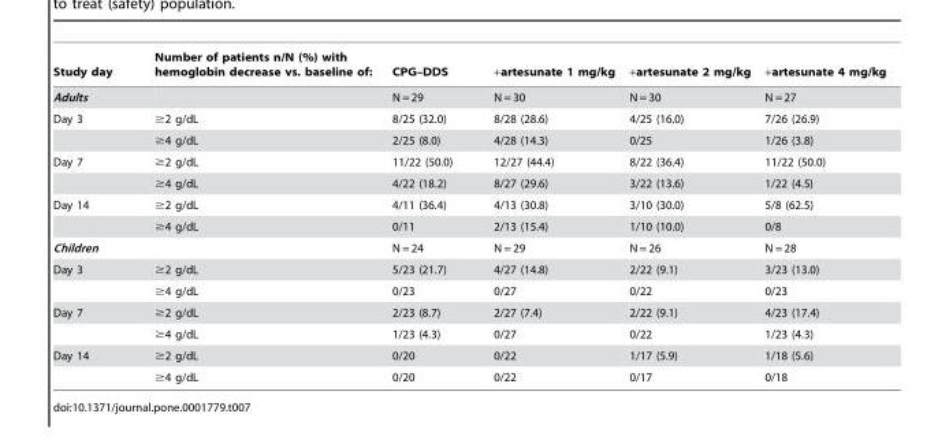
<table><thead><tr><td>Study day</td><td>Number of patients n/N (%) with hemoglobin decrease vs. baseline of:</td><td>CPG–DDS</td><td>+artesunate 1 mg/kg</td><td>+artesunate 2 mg/kg</td><td>+artesunate 4 mg/kg</td></tr></thead><tbody><tr><td>Adults</td><td></td><td>N = 29</td><td>N = 30</td><td>N = 30</td><td>N = 27</td></tr><tr><td rowspan="2">Day 3</td><td>≥2 g/dL</td><td>8/25 (32.0)</td><td>8/28 (28.6)</td><td>4/25 (16.0)</td><td>7/26 (26.9)</td></tr><tr><td>≥4 g/dL</td><td>2/25 (8.0)</td><td>4/28 (14.3)</td><td>0/25</td><td>1/26 (3.8)</td></tr><tr><td rowspan="2">Day 7</td><td>≥2 g/dL</td><td>11/22 (50.0)</td><td>12/27 (44.4)</td><td>8/22 (36.4)</td><td>11/22 (50.0)</td></tr><tr><td>≥4 g/dL</td><td>4/22 (18.2)</td><td>8/27 (29.6)</td><td>3/22 (13.6)</td><td>1/22 (4.5)</td></tr><tr><td rowspan="2">Day 14</td><td>≥2 g/dL</td><td>4/11 (36.4)</td><td>4/13 (30.8)</td><td>3/10 (30.0)</td><td>5/8 (62.5)</td></tr><tr><td>≥4 g/dL</td><td>0/11</td><td>2/13 (15.4)</td><td>1/10 (10.0)</td><td>0/8</td></tr><tr><td>Children</td><td></td><td>N = 24</td><td>N = 29</td><td>N = 26</td><td>N = 28</td></tr><tr><td rowspan="2">Day 3</td><td>≥2 g/dL</td><td>5/23 (21.7)</td><td>4/27 (14.8)</td><td>2/22 (9.1)</td><td>3/23 (13.0)</td></tr><tr><td>≥4 g/dL</td><td>0/23</td><td>0/27</td><td>0/22</td><td>0/23</td></tr><tr><td rowspan="2">Day 7</td><td>≥2 g/dL</td><td>2/23 (8.7)</td><td>2/27 (7.4)</td><td>2/22 (9.1)</td><td>4/23 (17.4)</td></tr><tr><td>≥4 g/dL</td><td>1/23 (4.3)</td><td>0/27</td><td>0/22</td><td>1/23 (4.3)</td></tr><tr><td rowspan="2">Day 14</td><td>≥2 g/dL</td><td>0/20</td><td>0/22</td><td>1/17 (5.9)</td><td>1/18 (5.6)</td></tr><tr><td>≥4 g/dL</td><td>0/20</td><td>0/22</td><td>0/17</td><td>0/18</td></tr></tbody></table>